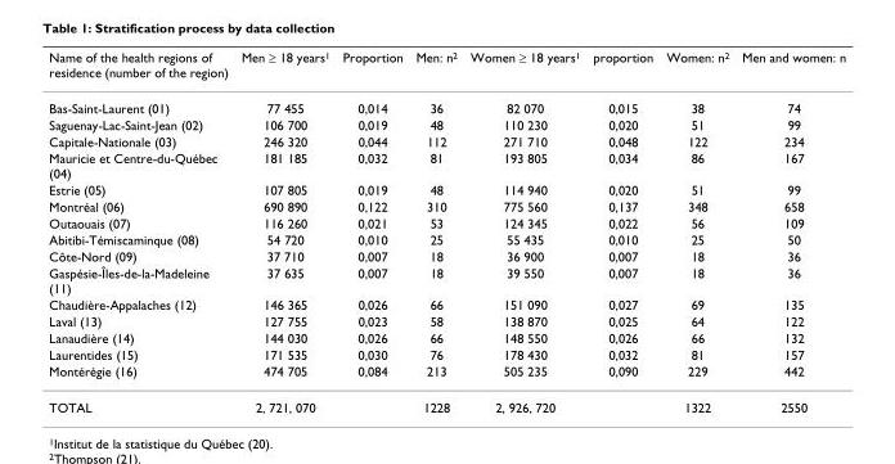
<table><thead><tr><td>Name of the health regions of residence (number of the region)</td><td>Men ≥ 18 years<sup>1</sup></td><td>Proportion</td><td>Men: n<sup>2</sup></td><td>Women ≥ 18 years<sup>1</sup></td><td>proportion</td><td>Women: n<sup>2</sup></td><td>Men and women: n</td></tr></thead><tbody><tr><td>Bas-Saint-Laurent (01)</td><td>77 455</td><td>0,014</td><td>36</td><td>82 070</td><td>0,015</td><td>38</td><td>74</td></tr><tr><td>Saguenay-Lac-Saint-Jean (02)</td><td>106 700</td><td>0,019</td><td>48</td><td>110 230</td><td>0,020</td><td>51</td><td>99</td></tr><tr><td>Capitale-Nationale (03)</td><td>246 320</td><td>0,044</td><td>112</td><td>271 710</td><td>0,048</td><td>122</td><td>234</td></tr><tr><td>Mauricie et Centre-du-Québec (04)</td><td>181 185</td><td>0,032</td><td>81</td><td>193 805</td><td>0,034</td><td>86</td><td>167</td></tr><tr><td>Estrie (05)</td><td>107 805</td><td>0,019</td><td>48</td><td>114 940</td><td>0,020</td><td>51</td><td>99</td></tr><tr><td>Montréal (06)</td><td>690 890</td><td>0,122</td><td>310</td><td>775 560</td><td>0,137</td><td>348</td><td>658</td></tr><tr><td>Outaouais (07)</td><td>116 260</td><td>0,021</td><td>53</td><td>124 345</td><td>0,022</td><td>56</td><td>109</td></tr><tr><td>Abitibi-Témiscaminque (08)</td><td>54 720</td><td>0,010</td><td>25</td><td>55 435</td><td>0,010</td><td>25</td><td>50</td></tr><tr><td>Côte-Nord (09)</td><td>37 710</td><td>0,007</td><td>18</td><td>36 900</td><td>0,007</td><td>18</td><td>36</td></tr><tr><td>Gaspésie-Îles-de-la-Madeleine (11)</td><td>37 635</td><td>0,007</td><td>18</td><td>39 550</td><td>0,007</td><td>18</td><td>36</td></tr><tr><td>Chaudière-Appalaches (12)</td><td>146 365</td><td>0,026</td><td>66</td><td>151 090</td><td>0,027</td><td>69</td><td>135</td></tr><tr><td>Laval (13)</td><td>127 755</td><td>0,023</td><td>58</td><td>138 870</td><td>0,025</td><td>64</td><td>122</td></tr><tr><td>Lanaudière (14)</td><td>144 030</td><td>0,026</td><td>66</td><td>148 550</td><td>0,026</td><td>66</td><td>132</td></tr><tr><td>Laurentides (15)</td><td>171 535</td><td>0,030</td><td>76</td><td>178 430</td><td>0,032</td><td>81</td><td>157</td></tr><tr><td>Montérégie (16)</td><td>474 705</td><td>0,084</td><td>213</td><td>505 235</td><td>0,090</td><td>229</td><td>442</td></tr><tr><td>TOTAL</td><td>2, 721, 070</td><td></td><td>1228</td><td>2, 926, 720</td><td></td><td>1322</td><td>2550</td></tr></tbody></table>